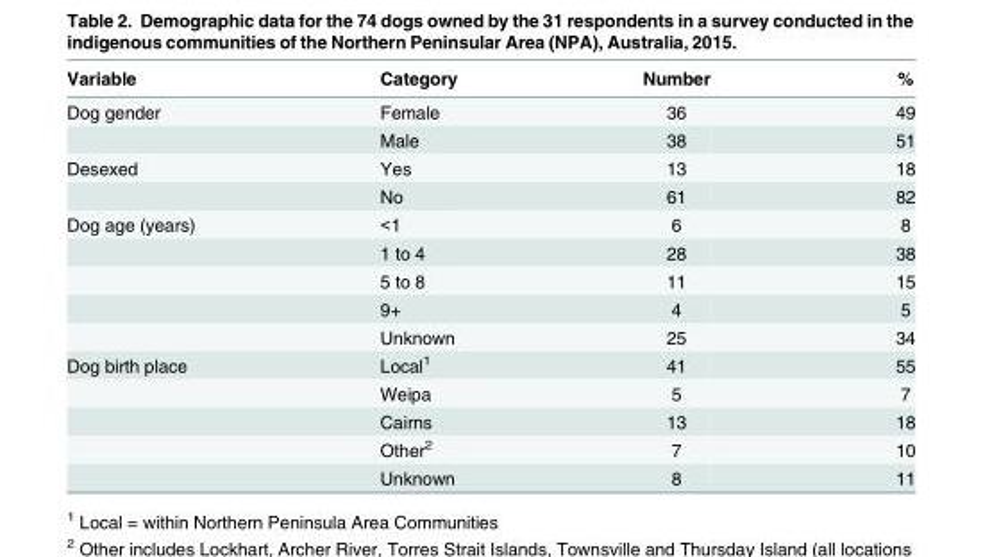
<table><thead><tr><td>Variable</td><td>Category</td><td>Number</td><td>%</td></tr></thead><tbody><tr><td rowspan="2">Dog gender</td><td>Female</td><td>36</td><td>49</td></tr><tr><td>Male</td><td>38</td><td>51</td></tr><tr><td rowspan="2">Desexed</td><td>Yes</td><td>13</td><td>18</td></tr><tr><td>No</td><td>61</td><td>82</td></tr><tr><td rowspan="5">Dog age (years)</td><td>&lt;1</td><td>6</td><td>8</td></tr><tr><td>1 to 4</td><td>28</td><td>38</td></tr><tr><td>5 to 8</td><td>11</td><td>15</td></tr><tr><td>9+</td><td>4</td><td>5</td></tr><tr><td>Unknown</td><td>25</td><td>34</td></tr><tr><td rowspan="5">Dog birth place</td><td>Local<sup>1</sup></td><td>41</td><td>55</td></tr><tr><td>Weipa</td><td>5</td><td>7</td></tr><tr><td>Cairns</td><td>13</td><td>18</td></tr><tr><td>Other<sup>2</sup></td><td>7</td><td>10</td></tr><tr><td>Unknown</td><td>8</td><td>11</td></tr></tbody></table>